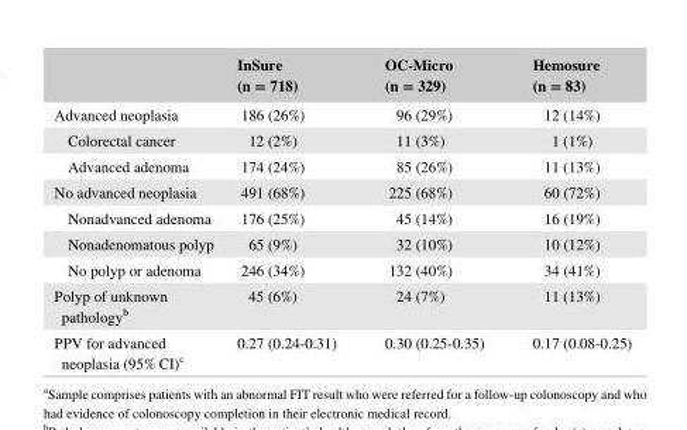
<table><thead><tr><td></td><td>InSure (n = 718)</td><td>OC- Micro (n = 329)</td><td>Hemosure (n = 83)</td></tr></thead><tbody><tr><td>Advanced neoplasia</td><td>186 (26%)</td><td>96 (29%)</td><td>12 (14%)</td></tr><tr><td>Colorectal cancer</td><td>12 (2%)</td><td>11 (3%)</td><td>1 (1%)</td></tr><tr><td>Advanced adenoma</td><td>174 (24%)</td><td>85 (26%)</td><td>11 (13%)</td></tr><tr><td>No advanced neoplasia</td><td>491 (68%)</td><td>225 (68%)</td><td>60 (72%)</td></tr><tr><td>Nonadvanced adenoma</td><td>176 (25%)</td><td>45 (14%)</td><td>16 (19%)</td></tr><tr><td>Nonadenomatous polyp</td><td>65 (9%)</td><td>32 (10%)</td><td>10 (12%)</td></tr><tr><td>No polyp or adenoma</td><td>246 (34%)</td><td>132 (40%)</td><td>34 (41%)</td></tr><tr><td>Polyp of unknown pathology<sup>b</sup></td><td>45 (6%)</td><td>24 (7%)</td><td>11 (13%)</td></tr><tr><td>PPV for advanced neoplasia (95% CI)<sup>c</sup></td><td>0.27 (0.24- 0.31)</td><td>0.30 (0.25- 0.35)</td><td>0.17 (0.08- 0.25)</td></tr></tbody></table>